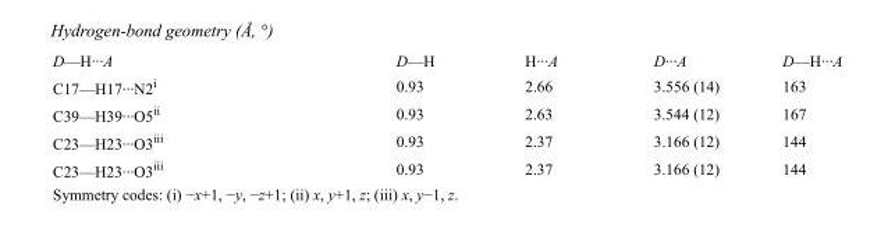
<table><tbody><tr><td>D—H···A</td><td>D—H</td><td>H···A</td><td>D···A</td><td>D—H···A</td></tr><tr><td>C17—H17···N2<sup>i</sup></td><td>0.93</td><td>2.66</td><td>3.556 (14)</td><td>163</td></tr><tr><td>C39—H39···O5<sup>ii</sup></td><td>0.93</td><td>2.63</td><td>3.544 (12)</td><td>167</td></tr><tr><td>C23—H23···O3<sup>iii</sup></td><td>0.93</td><td>2.37</td><td>3.166 (12)</td><td>144</td></tr><tr><td>C23—H23···O3<sup>iii</sup></td><td>0.93</td><td>2.37</td><td>3.166 (12)</td><td>144</td></tr></tbody></table>